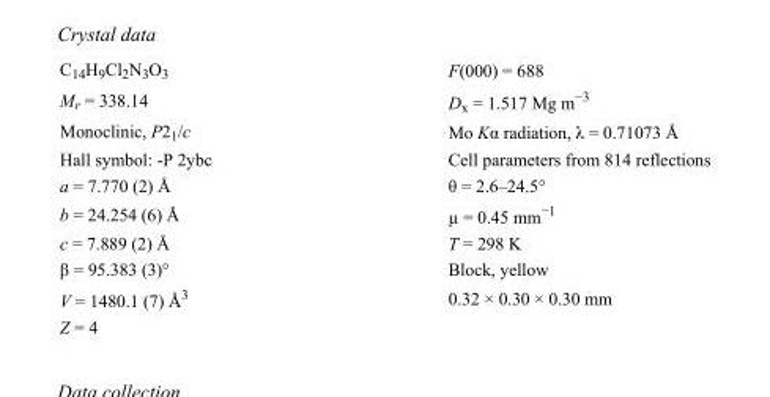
<table><tbody><tr><td>C<sub>14</sub>H<sub>9</sub>Cl<sub>2</sub>N<sub>3</sub>O<sub>3</sub></td><td>F(000) = 688</td></tr><tr><td>M<sub>r</sub> = 338.14</td><td>D<sub>x</sub> = 1.517 Mg m<sup>−3</sup></td></tr><tr><td>Monoclinic, P2<sub>1</sub>/c</td><td>Mo Kα radiation, λ = 0.71073 Å</td></tr><tr><td>Hall symbol: -P 2ybc</td><td>Cell parameters from 814 reflections</td></tr><tr><td>a = 7.770 (2) Å</td><td>θ = 2.6–24.5°</td></tr><tr><td>b = 24.254 (6) Å</td><td>µ = 0.45 mm<sup>−1</sup></td></tr><tr><td>c = 7.889 (2) Å</td><td>T = 298 K</td></tr><tr><td>β = 95.383 (3)°</td><td>Block, yellow</td></tr><tr><td>V = 1480.1 (7) Å<sup>3</sup></td><td>0.32 × 0.30 × 0.30 mm</td></tr><tr><td>Z = 4</td><td></td></tr></tbody></table>